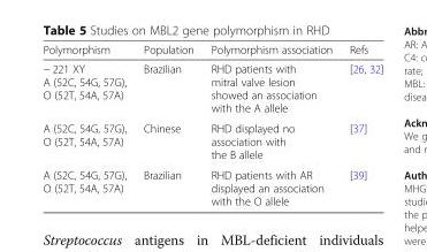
<table><thead><tr><td>Polymorphism</td><td>Population</td><td>Polymorphism association</td><td>Refs</td></tr></thead><tbody><tr><td>− 221 XY A (52C, 54G, 57G), O (52T, 54A, 57A)</td><td>Brazilian</td><td>RHD patients with mitral valve lesion showed an association with the A allele</td><td>[26, 32]</td></tr><tr><td>A (52C, 54G, 57G), O (52T, 54A, 57A)</td><td>Chinese</td><td>RHD displayed no association with the B allele</td><td>[37]</td></tr><tr><td>A (52C, 54G, 57G), O (52T, 54A, 57A)</td><td>Brazilian</td><td>RHD patients with AR displayed an association with the O allele</td><td>[39]</td></tr></tbody></table>